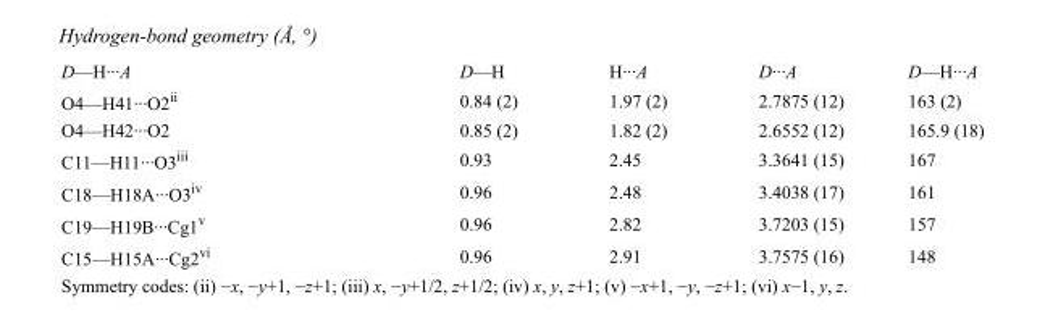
<table><tbody><tr><td>D—H···A</td><td>D—H</td><td>H···A</td><td>D···A</td><td>D—H···A</td></tr><tr><td>O4—H41···O2<sup>ii</sup></td><td>0.84 (2)</td><td>1.97 (2)</td><td>2.7875 (12)</td><td>163 (2)</td></tr><tr><td>O4—H42···O2</td><td>0.85 (2)</td><td>1.82 (2)</td><td>2.6552 (12)</td><td>165.9 (18)</td></tr><tr><td>C11—H11···O3<sup>iii</sup></td><td>0.93</td><td>2.45</td><td>3.3641 (15)</td><td>167</td></tr><tr><td>C18—H18A···O3<sup>iv</sup></td><td>0.96</td><td>2.48</td><td>3.4038 (17)</td><td>161</td></tr><tr><td>C19—H19B···Cg1<sup>v</sup></td><td>0.96</td><td>2.82</td><td>3.7203 (15)</td><td>157</td></tr><tr><td>C15—H15A···Cg2<sup>vi</sup></td><td>0.96</td><td>2.91</td><td>3.7575 (16)</td><td>148</td></tr></tbody></table>